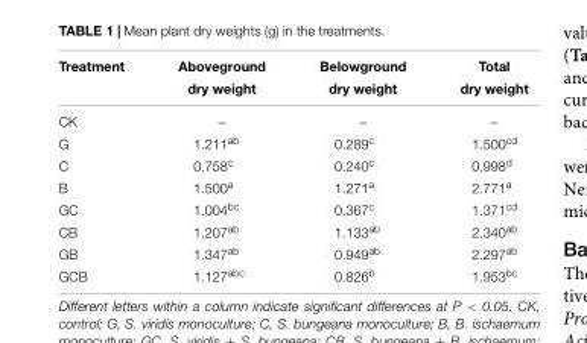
<table><thead><tr><td rowspan="2">Treatment</td><td rowspan="2">Aboveground dry weight</td><td rowspan="2">Belowground dry weight</td><td rowspan="2">Total dry weight</td></tr><tr></tr></thead><tbody><tr><td>CK</td><td>–</td><td>–</td><td>–</td></tr><tr><td>G</td><td>1.211ab</td><td>0.289c</td><td>1.500cd</td></tr><tr><td>C</td><td>0.758c</td><td>0.240c</td><td>0.998d</td></tr><tr><td>B</td><td>1.500a</td><td>1.271a</td><td>2.771a</td></tr><tr><td>GC</td><td>1.004bc</td><td>0.367c</td><td>1.371cd</td></tr><tr><td>CB</td><td>1.207ab</td><td>1.133ab</td><td>2.340ab</td></tr><tr><td>GB</td><td>1.347ab</td><td>0.949ab</td><td>2.297ab</td></tr><tr><td>GCB</td><td>1.127abc</td><td>0.826b</td><td>1.953bc</td></tr></tbody></table>